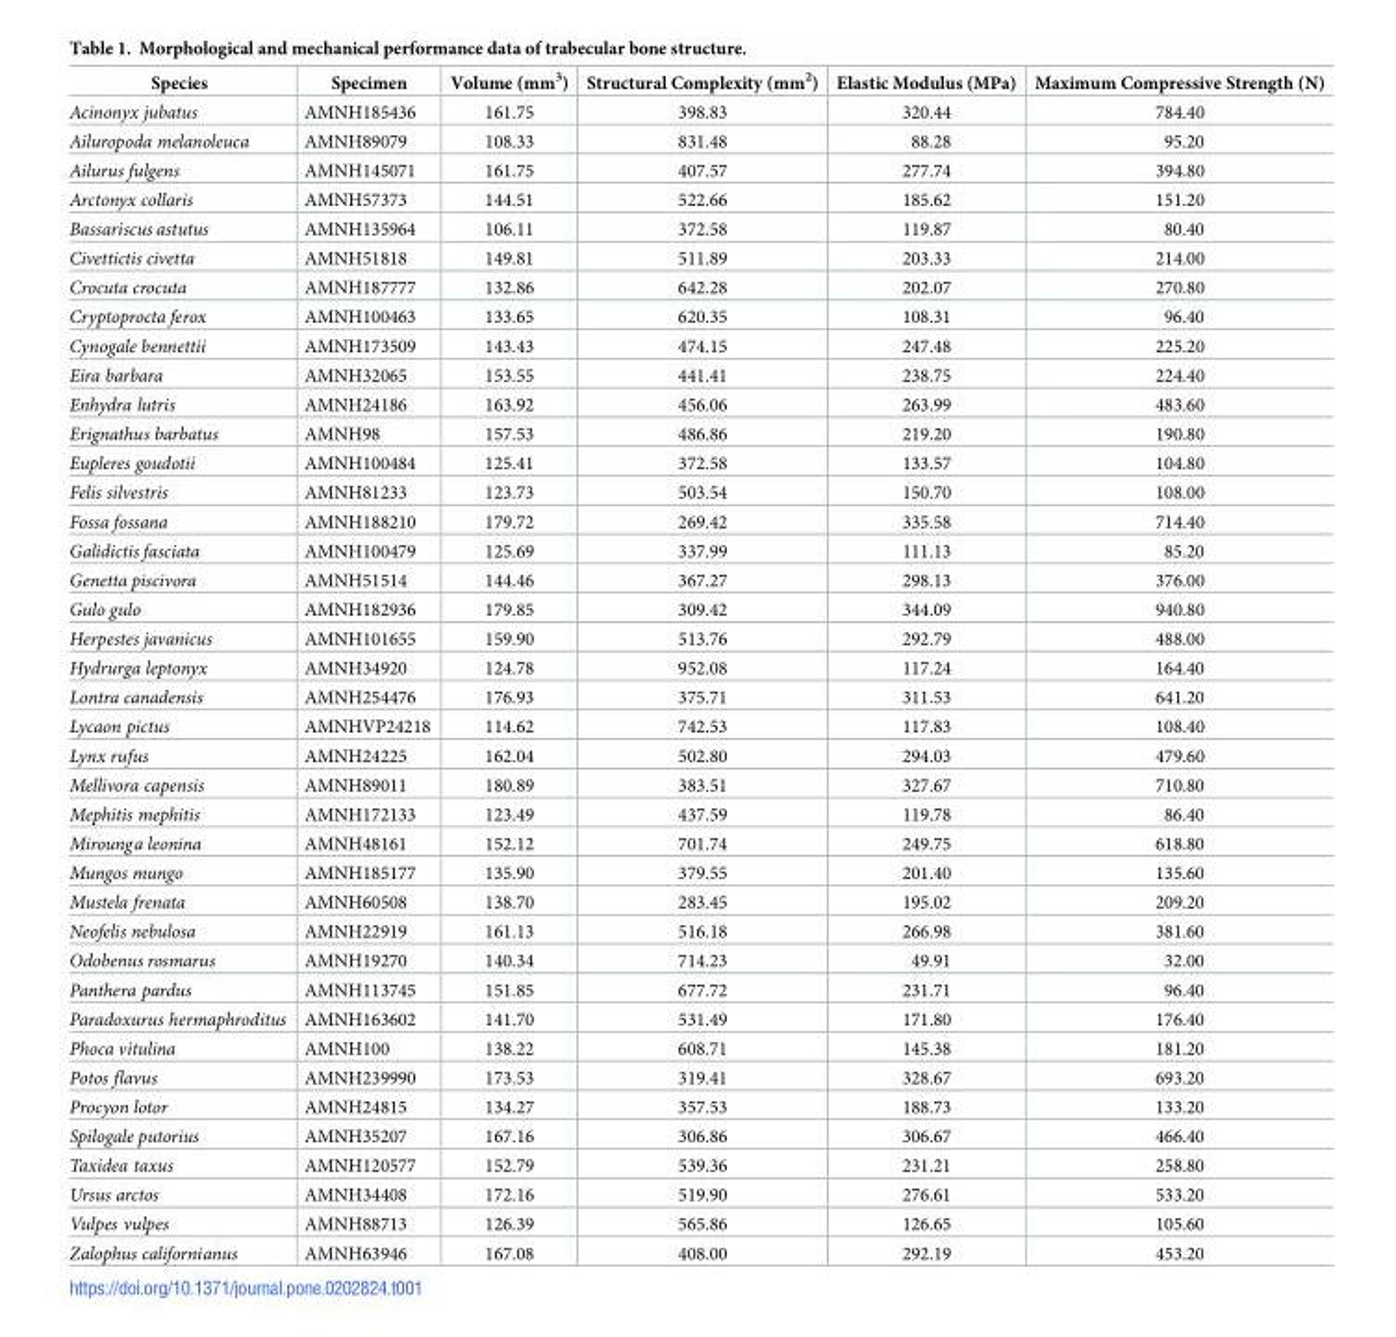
<table><thead><tr><td>Species</td><td>Specimen</td><td>Volume (mm<sup>3</sup>)</td><td>Structural Complexity (mm<sup>2</sup>)</td><td>Elastic Modulus (MPa)</td><td>Maximum Compressive Strength (N)</td></tr></thead><tbody><tr><td>Acinonyx jubatus</td><td>AMNH185436</td><td>161.75</td><td>398.83</td><td>320.44</td><td>784.40</td></tr><tr><td>Ailuropoda melanoleuca</td><td>AMNH89079</td><td>108.33</td><td>831.48</td><td>88.28</td><td>95.20</td></tr><tr><td>Ailurus fulgens</td><td>AMNH145071</td><td>161.75</td><td>407.57</td><td>277.74</td><td>394.80</td></tr><tr><td>Arctonyx collaris</td><td>AMNH57373</td><td>144.51</td><td>522.66</td><td>185.62</td><td>151.20</td></tr><tr><td>Bassariscus astutus</td><td>AMNH135964</td><td>106.11</td><td>372.58</td><td>119.87</td><td>80.40</td></tr><tr><td>Civettictis civetta</td><td>AMNH51818</td><td>149.81</td><td>511.89</td><td>203.33</td><td>214.00</td></tr><tr><td>Crocuta crocuta</td><td>AMNH187777</td><td>132.86</td><td>642.28</td><td>202.07</td><td>270.80</td></tr><tr><td>Cryptoprocta ferox</td><td>AMNH100463</td><td>133.65</td><td>620.35</td><td>108.31</td><td>96.40</td></tr><tr><td>Cynogale bennettii</td><td>AMNH173509</td><td>143.43</td><td>474.15</td><td>247.48</td><td>225.20</td></tr><tr><td>Eira barbara</td><td>AMNH32065</td><td>153.55</td><td>441.41</td><td>238.75</td><td>224.40</td></tr><tr><td>Enhydra lutris</td><td>AMNH24186</td><td>163.92</td><td>456.06</td><td>263.99</td><td>483.60</td></tr><tr><td>Erignathus barbatus</td><td>AMNH98</td><td>157.53</td><td>486.86</td><td>219.20</td><td>190.80</td></tr><tr><td>Eupleres goudotii</td><td>AMNH100484</td><td>125.41</td><td>372.58</td><td>133.57</td><td>104.80</td></tr><tr><td>Felis silvestris</td><td>AMNH81233</td><td>123.73</td><td>503.54</td><td>150.70</td><td>108.00</td></tr><tr><td>Fossa fossana</td><td>AMNH188210</td><td>179.72</td><td>269.42</td><td>335.58</td><td>714.40</td></tr><tr><td>Galidictis fasciata</td><td>AMNH100479</td><td>125.69</td><td>337.99</td><td>111.13</td><td>85.20</td></tr><tr><td>Genetta piscivora</td><td>AMNH51514</td><td>144.46</td><td>367.27</td><td>298.13</td><td>376.00</td></tr><tr><td>Gulo gulo</td><td>AMNH182936</td><td>179.85</td><td>309.42</td><td>344.09</td><td>940.80</td></tr><tr><td>Herpestes javanicus</td><td>AMNH101655</td><td>159.90</td><td>513.76</td><td>292.79</td><td>488.00</td></tr><tr><td>Hydrurga leptonyx</td><td>AMNH34920</td><td>124.78</td><td>952.08</td><td>117.24</td><td>164.40</td></tr><tr><td>Lontra canadensis</td><td>AMNH254476</td><td>176.93</td><td>375.71</td><td>311.53</td><td>641.20</td></tr><tr><td>Lycaon pictus</td><td>AMNHVP24218</td><td>114.62</td><td>742.53</td><td>117.83</td><td>108.40</td></tr><tr><td>Lynx rufus</td><td>AMNH24225</td><td>162.04</td><td>502.80</td><td>294.03</td><td>479.60</td></tr><tr><td>Mellivora capensis</td><td>AMNH89011</td><td>180.89</td><td>383.51</td><td>327.67</td><td>710.80</td></tr><tr><td>Mephitis mephitis</td><td>AMNH172133</td><td>123.49</td><td>437.59</td><td>119.78</td><td>86.40</td></tr><tr><td>Mirounga leonina</td><td>AMNH48161</td><td>152.12</td><td>701.74</td><td>249.75</td><td>618.80</td></tr><tr><td>Mungos mungo</td><td>AMNH185177</td><td>135.90</td><td>379.55</td><td>201.40</td><td>135.60</td></tr><tr><td>Mustela frenata</td><td>AMNH60508</td><td>138.70</td><td>283.45</td><td>195.02</td><td>209.20</td></tr><tr><td>Neofelis nebulosa</td><td>AMNH22919</td><td>161.13</td><td>516.18</td><td>266.98</td><td>381.60</td></tr><tr><td>Odobenus rosmarus</td><td>AMNH19270</td><td>140.34</td><td>714.23</td><td>49.91</td><td>32.00</td></tr><tr><td>Panthera pardus</td><td>AMNH113745</td><td>151.85</td><td>677.72</td><td>231.71</td><td>96.40</td></tr><tr><td>Paradoxurus hermaphroditus</td><td>AMNH163602</td><td>141.70</td><td>531.49</td><td>171.80</td><td>176.40</td></tr><tr><td>Phoca vitulina</td><td>AMNH100</td><td>138.22</td><td>608.71</td><td>145.38</td><td>181.20</td></tr><tr><td>Potos flavus</td><td>AMNH239990</td><td>173.53</td><td>319.41</td><td>328.67</td><td>693.20</td></tr><tr><td>Procyon lotor</td><td>AMNH24815</td><td>134.27</td><td>357.53</td><td>188.73</td><td>133.20</td></tr><tr><td>Spilogale putorius</td><td>AMNH35207</td><td>167.16</td><td>306.86</td><td>306.67</td><td>466.40</td></tr><tr><td>Taxidea taxus</td><td>AMNH120577</td><td>152.79</td><td>539.36</td><td>231.21</td><td>258.80</td></tr><tr><td>Ursus arctos</td><td>AMNH34408</td><td>172.16</td><td>519.90</td><td>276.61</td><td>533.20</td></tr><tr><td>Vulpes vulpes</td><td>AMNH88713</td><td>126.39</td><td>565.86</td><td>126.65</td><td>105.60</td></tr><tr><td>Zalophus californianus</td><td>AMNH63946</td><td>167.08</td><td>408.00</td><td>292.19</td><td>453.20</td></tr></tbody></table>